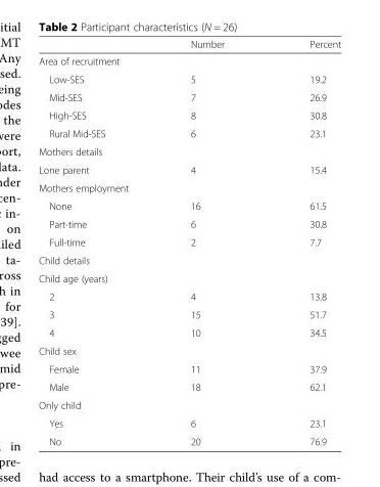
<table><thead><tr><td></td><td>Number</td><td>Percent</td></tr></thead><tbody><tr><td colspan="3">Area of recruitment</td></tr><tr><td>Low-SES</td><td>5</td><td>19.2</td></tr><tr><td>Mid-SES</td><td>7</td><td>26.9</td></tr><tr><td>High-SES</td><td>8</td><td>30.8</td></tr><tr><td>Rural Mid-SES</td><td>6</td><td>23.1</td></tr><tr><td colspan="3">Mothers details</td></tr><tr><td>Lone parent</td><td>4</td><td>15.4</td></tr><tr><td colspan="3">Mothers employment</td></tr><tr><td>None</td><td>16</td><td>61.5</td></tr><tr><td>Part-time</td><td>6</td><td>30.8</td></tr><tr><td>Full-time</td><td>2</td><td>7.7</td></tr><tr><td colspan="3">Child details</td></tr><tr><td colspan="3">Child age (years)</td></tr><tr><td>2</td><td>4</td><td>13.8</td></tr><tr><td>3</td><td>15</td><td>51.7</td></tr><tr><td>4</td><td>10</td><td>34.5</td></tr><tr><td colspan="3">Child sex</td></tr><tr><td>Female</td><td>11</td><td>37.9</td></tr><tr><td>Male</td><td>18</td><td>62.1</td></tr><tr><td colspan="3">Only child</td></tr><tr><td>Yes</td><td>6</td><td>23.1</td></tr><tr><td>No</td><td>20</td><td>76.9</td></tr></tbody></table>